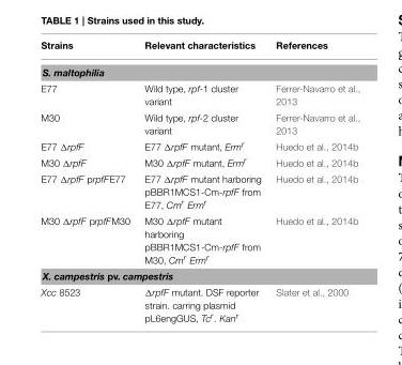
<table><thead><tr><td>Strains</td><td>Relevant characteristics</td><td>References</td></tr></thead><tbody><tr><td colspan="3">S. maltophilia</td></tr><tr><td>E77</td><td>Wild type, rpf-1 cluster variant</td><td>Ferrer-Navarro et al., 2013</td></tr><tr><td>M30</td><td>Wild type, rpf-2 cluster variant</td><td>Ferrer-Navarro et al., 2013</td></tr><tr><td>E77 ΔrpfF</td><td>E77 ΔrpfF mutant, Erm<sup>r</sup></td><td>Huedo et al., 2014b</td></tr><tr><td>M30 ΔrpfF</td><td>M30 ΔrpfF mutant, Erm<sup>r</sup></td><td>Huedo et al., 2014b</td></tr><tr><td>E77 ΔrpfF prpfFE77</td><td>E77 ΔrpfF mutant harboring pBBR1MCS1-Cm-rpfF from E77, Cm<sup>r</sup> Erm<sup>r</sup></td><td>Huedo et al., 2014b</td></tr><tr><td>M30 ΔrpfF prpfFM30</td><td>M30 ΔrpfF mutant harboring pBBR1MCS1-Cm-rpfF from M30, Cm<sup>r</sup> Erm<sup>r</sup></td><td>Huedo et al., 2014b</td></tr><tr><td colspan="3">X. campestris pv. campestris</td></tr><tr><td>Xcc 8523</td><td>ΔrpfF mutant. DSF reporter strain. carring plasmid pL6engGUS, Tc<sup>r</sup>. Kan<sup>r</sup></td><td>Slater et al., 2000</td></tr></tbody></table>